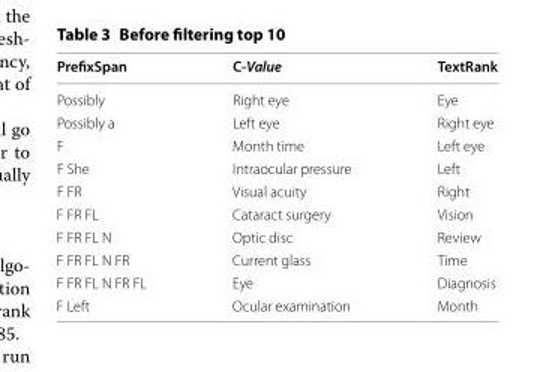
<table><thead><tr><td>PrefixSpan</td><td>C‑Value</td><td>TextRank</td></tr></thead><tbody><tr><td>Possibly</td><td>Right eye</td><td>Eye</td></tr><tr><td>Possibly a</td><td>Left eye</td><td>Right eye</td></tr><tr><td>F</td><td>Month time</td><td>Left eye</td></tr><tr><td>F She</td><td>Intraocular pressure</td><td>Left</td></tr><tr><td>F FR</td><td>Visual acuity</td><td>Right</td></tr><tr><td>F FR FL</td><td>Cataract surgery</td><td>Vision</td></tr><tr><td>F FR FL N</td><td>Optic disc</td><td>Review</td></tr><tr><td>F FR FL N FR</td><td>Current glass</td><td>Time</td></tr><tr><td>F FR FL N FR FL</td><td>Eye</td><td>Diagnosis</td></tr><tr><td>F Left</td><td>Ocular examination</td><td>Month</td></tr></tbody></table>